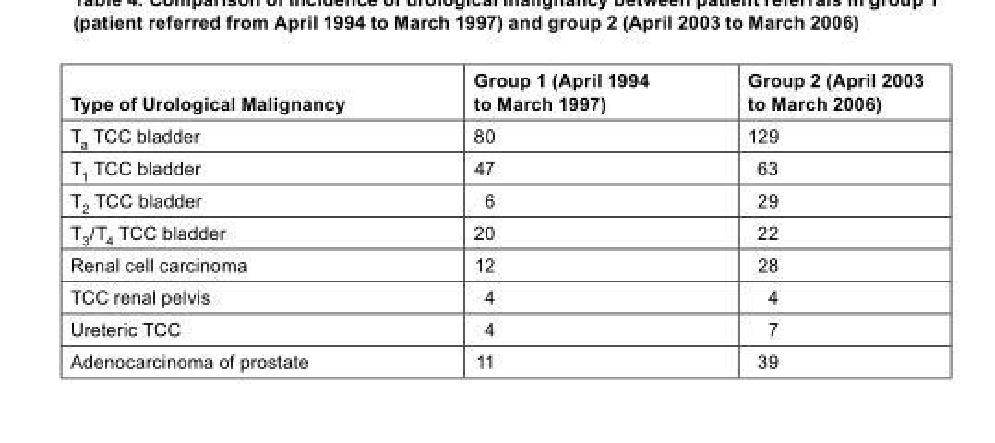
<table><thead><tr><td>Type of Urological Malignancy</td><td>Group 1 (April 1994 to March 1997)</td><td>Group 2 (April 2003 to March 2006)</td></tr></thead><tbody><tr><td>T<sub>a</sub> TCC bladder</td><td>80</td><td>129</td></tr><tr><td>T<sub>1</sub> TCC bladder</td><td>47</td><td>63</td></tr><tr><td>T<sub>2</sub> TCC bladder</td><td>6</td><td>29</td></tr><tr><td>T<sub>3</sub>/T<sub>4</sub> TCC bladder</td><td>20</td><td>22</td></tr><tr><td>Renal cell carcinoma</td><td>12</td><td>28</td></tr><tr><td>TCC renal pelvis</td><td>4</td><td>4</td></tr><tr><td>Ureteric TCC</td><td>4</td><td>7</td></tr><tr><td>Adenocarcinoma of prostate</td><td>11</td><td>39</td></tr></tbody></table>